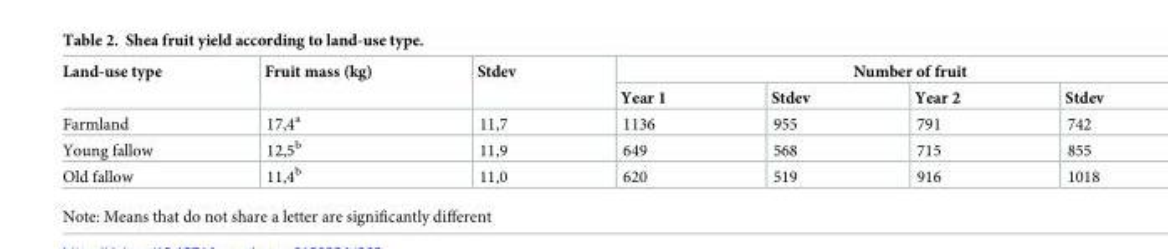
<table><thead><tr><td rowspan="2">Land-use type</td><td rowspan="2">Fruit mass (kg)</td><td rowspan="2">Stdev</td><td colspan="4">Number of fruit</td></tr><tr><td>Year 1</td><td>Stdev</td><td>Year 2</td><td>Stdev</td></tr></thead><tbody><tr><td>Farmland</td><td>17,4<sup>a</sup></td><td>11,7</td><td>1136</td><td>955</td><td>791</td><td>742</td></tr><tr><td>Young fallow</td><td>12,5<sup>b</sup></td><td>11,9</td><td>649</td><td>568</td><td>715</td><td>855</td></tr><tr><td>Old fallow</td><td>11,4<sup>b</sup></td><td>11,0</td><td>620</td><td>519</td><td>916</td><td>1018</td></tr></tbody></table>